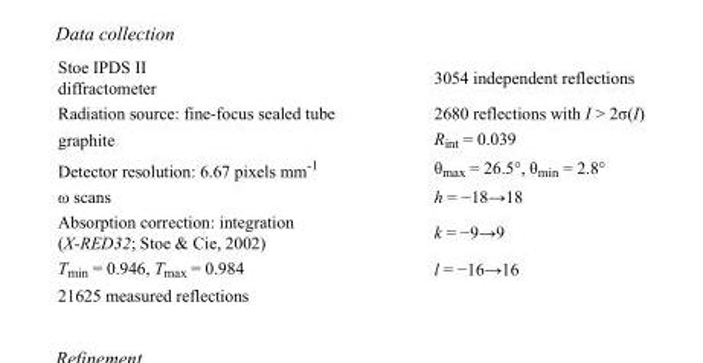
<table><tbody><tr><td>Stoe IPDS II diffractometer</td><td>3054 independent reflections</td></tr><tr><td>Radiation source: fine-focus sealed tube</td><td>2680 reflections with I &gt; 2σ(I)</td></tr><tr><td>graphite</td><td>R<sub>int</sub> = 0.039</td></tr><tr><td>Detector resolution: 6.67 pixels mm<sup>-1</sup></td><td>θ<sub>max</sub> = 26.5°, θ<sub>min</sub> = 2.8°</td></tr><tr><td>ω scans</td><td>h = −18→18</td></tr><tr><td>Absorption correction: integration (X-RED32; Stoe &amp; Cie, 2002)</td><td>k = −9→9</td></tr><tr><td>T<sub>min</sub> = 0.946, T<sub>max</sub> = 0.984</td><td>l = −16→16</td></tr><tr><td>21625 measured reflections</td><td></td></tr></tbody></table>